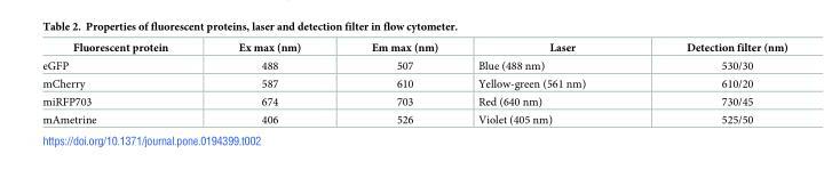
<table><thead><tr><td>Fluorescent protein</td><td>Ex max (nm)</td><td>Em max (nm)</td><td>Laser</td><td>Detection filter (nm)</td></tr></thead><tbody><tr><td>eGFP</td><td>488</td><td>507</td><td>Blue (488 nm)</td><td>530/30</td></tr><tr><td>mCherry</td><td>587</td><td>610</td><td>Yellow-green (561 nm)</td><td>610/20</td></tr><tr><td>miRFP703</td><td>674</td><td>703</td><td>Red (640 nm)</td><td>730/45</td></tr><tr><td>mAmetrine</td><td>406</td><td>526</td><td>Violet (405 nm)</td><td>525/50</td></tr></tbody></table>